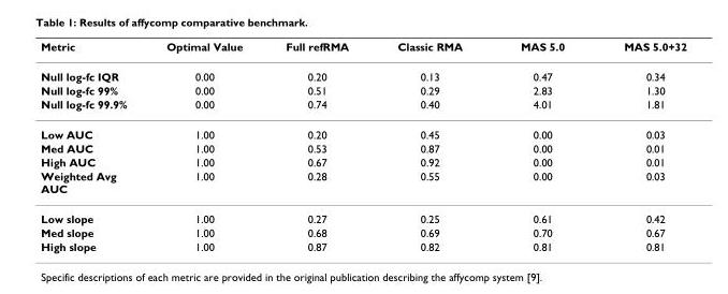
<table><thead><tr><td>Metric</td><td>Optimal Value</td><td>Full refRMA</td><td>Classic RMA</td><td>MAS 5.0</td><td>MAS 5.0+32</td></tr></thead><tbody><tr><td>Null log-fc IQR</td><td>0.00</td><td>0.20</td><td>0.13</td><td>0.47</td><td>0.34</td></tr><tr><td>Null log-fc 99%</td><td>0.00</td><td>0.51</td><td>0.29</td><td>2.83</td><td>1.30</td></tr><tr><td>Null log-fc 99.9%</td><td>0.00</td><td>0.74</td><td>0.40</td><td>4.01</td><td>1.81</td></tr><tr><td>Low AUC</td><td>1.00</td><td>0.20</td><td>0.45</td><td>0.00</td><td>0.03</td></tr><tr><td>Med AUC</td><td>1.00</td><td>0.53</td><td>0.87</td><td>0.00</td><td>0.01</td></tr><tr><td>High AUC</td><td>1.00</td><td>0.67</td><td>0.92</td><td>0.00</td><td>0.01</td></tr><tr><td>Weighted Avg AUC</td><td>1.00</td><td>0.28</td><td>0.55</td><td>0.00</td><td>0.03</td></tr><tr><td>Low slope</td><td>1.00</td><td>0.27</td><td>0.25</td><td>0.61</td><td>0.42</td></tr><tr><td>Med slope</td><td>1.00</td><td>0.68</td><td>0.69</td><td>0.70</td><td>0.67</td></tr><tr><td>High slope</td><td>1.00</td><td>0.87</td><td>0.82</td><td>0.81</td><td>0.81</td></tr></tbody></table>